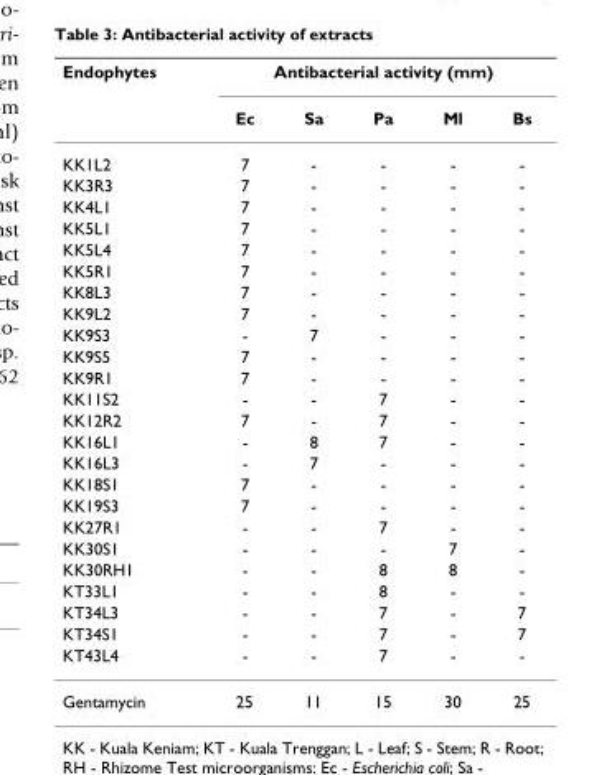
<table><thead><tr><td rowspan="2">Endophytes</td><td colspan="5">Antibacterial activity (mm)</td></tr><tr><td>Ec</td><td>Sa</td><td>Pa</td><td>Ml</td><td>Bs</td></tr></thead><tbody><tr><td>KK1L2</td><td>7</td><td>-</td><td>-</td><td>-</td><td>-</td></tr><tr><td>KK3R3</td><td>7</td><td>-</td><td>-</td><td>-</td><td>-</td></tr><tr><td>KK4L1</td><td>7</td><td>-</td><td>-</td><td>-</td><td>-</td></tr><tr><td>KK5L1</td><td>7</td><td>-</td><td>-</td><td>-</td><td>-</td></tr><tr><td>KK5L4</td><td>7</td><td>-</td><td>-</td><td>-</td><td>-</td></tr><tr><td>KK5R1</td><td>7</td><td>-</td><td>-</td><td>-</td><td>-</td></tr><tr><td>KK8L3</td><td>7</td><td>-</td><td>-</td><td>-</td><td>-</td></tr><tr><td>KK9L2</td><td>7</td><td>-</td><td>-</td><td>-</td><td>-</td></tr><tr><td>KK9S3</td><td>-</td><td>7</td><td>-</td><td>-</td><td>-</td></tr><tr><td>KK9S5</td><td>7</td><td>-</td><td>-</td><td>-</td><td>-</td></tr><tr><td>KK9R1</td><td>7</td><td>-</td><td>-</td><td>-</td><td>-</td></tr><tr><td>KK11S2</td><td>-</td><td>-</td><td>7</td><td>-</td><td>-</td></tr><tr><td>KK12R2</td><td>7</td><td>-</td><td>7</td><td>-</td><td>-</td></tr><tr><td>KK16L1</td><td>-</td><td>8</td><td>7</td><td>-</td><td>-</td></tr><tr><td>KK16L3</td><td>-</td><td>7</td><td>-</td><td>-</td><td>-</td></tr><tr><td>KK18S1</td><td>7</td><td>-</td><td>-</td><td>-</td><td>-</td></tr><tr><td>KK19S3</td><td>7</td><td>-</td><td>-</td><td>-</td><td>-</td></tr><tr><td>KK27R1</td><td>-</td><td>-</td><td>7</td><td>-</td><td>-</td></tr><tr><td>KK30S1</td><td>-</td><td>-</td><td>-</td><td>7</td><td>-</td></tr><tr><td>KK30RH1</td><td>-</td><td>-</td><td>8</td><td>8</td><td>-</td></tr><tr><td>KT33L1</td><td>-</td><td>-</td><td>8</td><td>-</td><td>-</td></tr><tr><td>KT34L3</td><td>-</td><td>-</td><td>7</td><td>-</td><td>7</td></tr><tr><td>KT34S1</td><td>-</td><td>-</td><td>7</td><td>-</td><td>7</td></tr><tr><td>KT43L4</td><td>-</td><td>-</td><td>7</td><td>-</td><td>-</td></tr><tr><td>Gentamycin</td><td>25</td><td>11</td><td>15</td><td>30</td><td>25</td></tr></tbody></table>